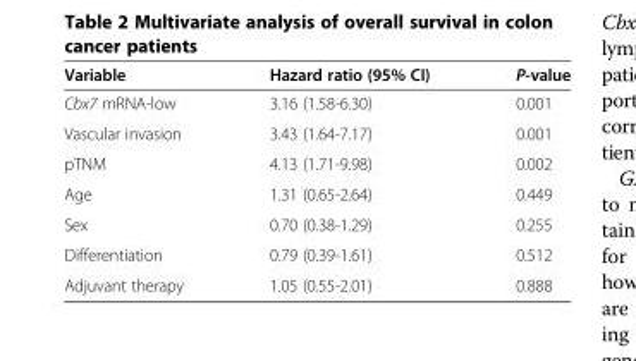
<table><thead><tr><td>Variable</td><td>Hazard ratio (95% CI)</td><td>P-value</td></tr></thead><tbody><tr><td>Cbx7 mRNA-low</td><td>3.16 (1.58-6.30)</td><td>0.001</td></tr><tr><td>Vascular invasion</td><td>3.43 (1.64-7.17)</td><td>0.001</td></tr><tr><td>pTNM</td><td>4.13 (1.71-9.98)</td><td>0.002</td></tr><tr><td>Age</td><td>1.31 (0.65-2.64)</td><td>0.449</td></tr><tr><td>Sex</td><td>0.70 (0.38-1.29)</td><td>0.255</td></tr><tr><td>Differentiation</td><td>0.79 (0.39-1.61)</td><td>0.512</td></tr><tr><td>Adjuvant therapy</td><td>1.05 (0.55-2.01)</td><td>0.888</td></tr></tbody></table>